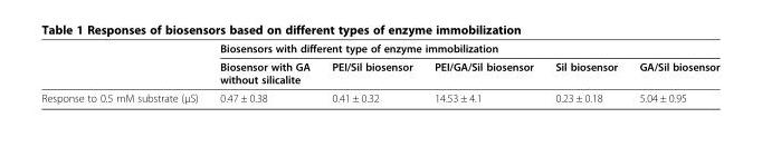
<table><thead><tr><td rowspan="2"></td><td colspan="5">Biosensors with different type of enzyme immobilization</td></tr><tr><td>Biosensor with GA without silicalite</td><td>PEI/Sil biosensor</td><td>PEI/GA/Sil biosensor</td><td>Sil biosensor</td><td>GA/Sil biosensor</td></tr></thead><tbody><tr><td>Response to 0.5 mM substrate (μS)</td><td>0.47 ± 0.38</td><td>0.41 ± 0.32</td><td>14.53 ± 4.1</td><td>0.23 ± 0.18</td><td>5.04 ± 0.95</td></tr></tbody></table>